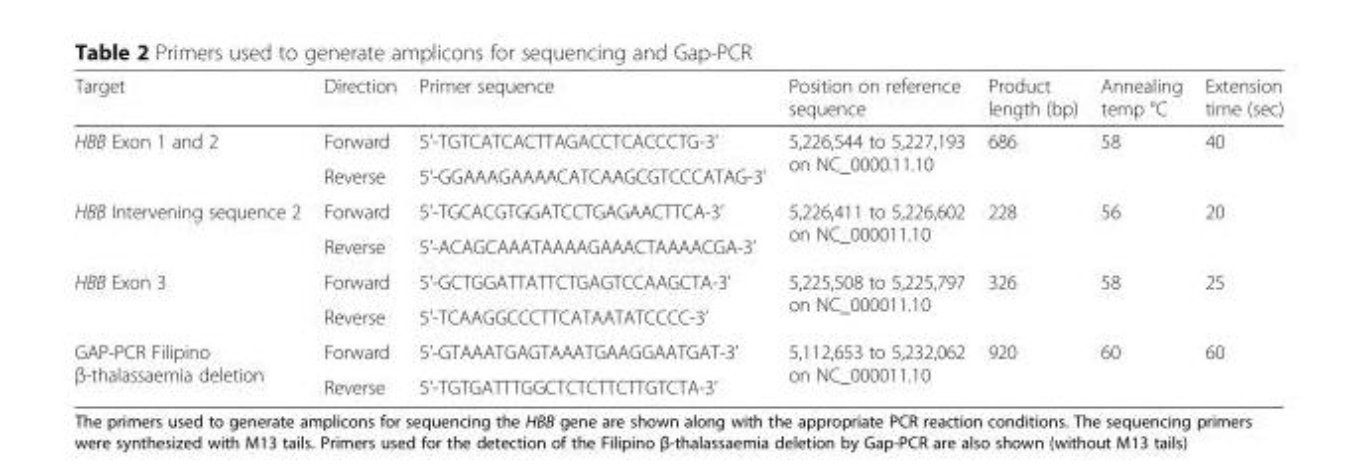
<table><thead><tr><td>Target</td><td>Direction</td><td>Primer sequence</td><td>Position on reference sequence</td><td>Product length (bp)</td><td>Annealing temp °C</td><td>Extension time (sec)</td></tr></thead><tbody><tr><td rowspan="2">HBB Exon 1 and 2</td><td>Forward</td><td>5’-TGTCATCACTTAGACCTCACCCTG-3’</td><td rowspan="2">5,226,544 to 5,227,193 on NC_0000.11.10</td><td rowspan="2">686</td><td rowspan="2">58</td><td rowspan="2">40</td></tr><tr><td>Reverse</td><td>5’-GGAAAGAAAACATCAAGCGTCCCATAG-3’</td></tr><tr><td rowspan="2">HBB Intervening sequence 2</td><td>Forward</td><td>5’-TGCACGTGGATCCTGAGAACTTCA-3’</td><td rowspan="2">5,226,411 to 5,226,602 on NC_000011.10</td><td rowspan="2">228</td><td rowspan="2">56</td><td rowspan="2">20</td></tr><tr><td>Reverse</td><td>5’-ACAGCAAATAAAAGAAACTAAAACGA-3’</td></tr><tr><td rowspan="2">HBB Exon 3</td><td>Forward</td><td>5’-GCTGGATTATTCTGAGTCCAAGCTA-3’</td><td rowspan="2">5,225,508 to 5,225,797 on NC_000011.10</td><td rowspan="2">326</td><td rowspan="2">58</td><td rowspan="2">25</td></tr><tr><td>Reverse</td><td>5’-TCAAGGCCCTTCATAATATCCCC-3’</td></tr><tr><td rowspan="2">GAP-PCR Filipino β-thalassaemia deletion</td><td>Forward</td><td>5’-GTAAATGAGTAAATGAAGGAATGAT-3’</td><td rowspan="2">5,112,653 to 5,232,062 on NC_000011.10</td><td rowspan="2">920</td><td rowspan="2">60</td><td rowspan="2">60</td></tr><tr><td>Reverse</td><td>5’-TGTGATTTGGCTCTCTTCTTGTCTA-3’</td></tr></tbody></table>